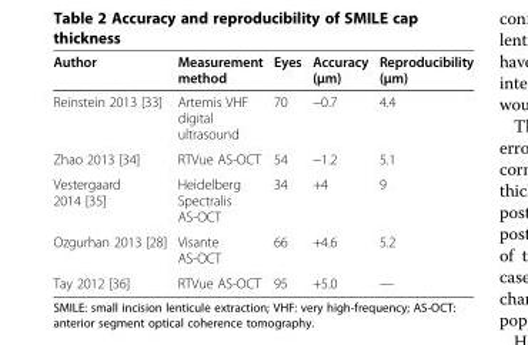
<table><thead><tr><td>Author</td><td>Measurement method</td><td>Eyes</td><td>Accuracy (μm)</td><td>Reproducibility (μm)</td></tr></thead><tbody><tr><td>Reinstein 2013 [33]</td><td>Artemis VHF digital ultrasound</td><td>70</td><td>−0.7</td><td>4.4</td></tr><tr><td>Zhao 2013 [34]</td><td>RTVue AS-OCT</td><td>54</td><td>−1.2</td><td>5.1</td></tr><tr><td>Vestergaard 2014 [35]</td><td>Heidelberg Spectralis AS-OCT</td><td>34</td><td>+4</td><td>9</td></tr><tr><td>Ozgurhan 2013 [28]</td><td>Visante AS-OCT</td><td>66</td><td>+4.6</td><td>5.2</td></tr><tr><td>Tay 2012 [36]</td><td>RTVue AS-OCT</td><td>95</td><td>+5.0</td><td>—</td></tr></tbody></table>